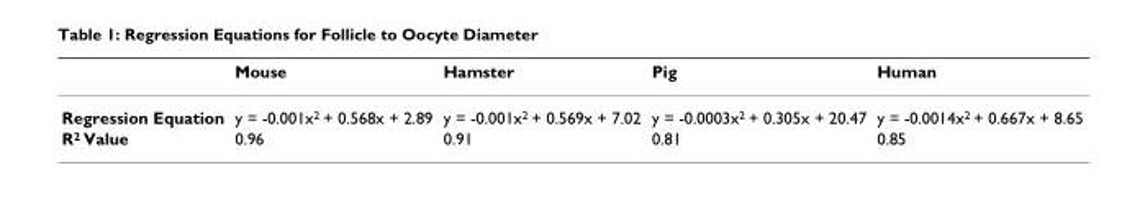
<table><thead><tr><td></td><td>Mouse</td><td>Hamster</td><td>Pig</td><td>Human</td></tr></thead><tbody><tr><td>Regression Equation</td><td>y = -0.001x<sup>2</sup> + 0.568x + 2.89</td><td>y = -0.001x<sup>2</sup> + 0.569x + 7.02</td><td>y = -0.0003x<sup>2</sup> + 0.305x + 20.47</td><td>y = -0.0014x<sup>2</sup> + 0.667x + 8.65</td></tr><tr><td>R<sup>2</sup> Value</td><td>0.96</td><td>0.91</td><td>0.81</td><td>0.85</td></tr></tbody></table>